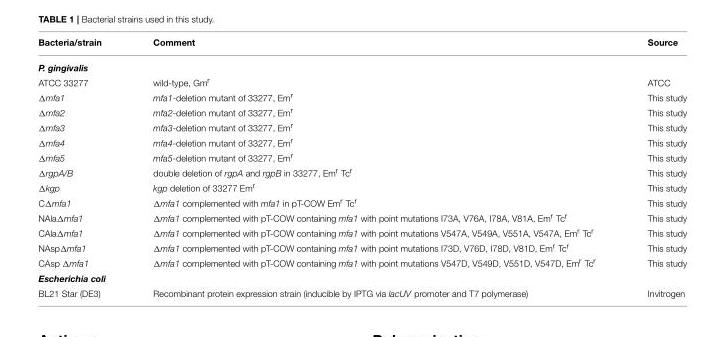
<table><thead><tr><td>Bacteria/strain</td><td>Comment</td><td>Source</td></tr></thead><tbody><tr><td colspan="3">P. gingivalis</td></tr><tr><td>ATCC 33277</td><td>wild-type, Gm<sup>r</sup></td><td>ATCC</td></tr><tr><td>Δmfa1</td><td>mfa1-deletion mutant of 33277, Em<sup>r</sup></td><td>This study</td></tr><tr><td>Δmfa2</td><td>mfa2-deletion mutant of 33277, Em<sup>r</sup></td><td>This study</td></tr><tr><td>Δmfa3</td><td>mfa3-deletion mutant of 33277, Em<sup>r</sup></td><td>This study</td></tr><tr><td>Δmfa4</td><td>mfa4-deletion mutant of 33277, Em<sup>r</sup></td><td>This study</td></tr><tr><td>Δmfa5</td><td>mfa5-deletion mutant of 33277, Em<sup>r</sup></td><td>This study</td></tr><tr><td>ΔrgpA/B</td><td>double deletion of rgpA and rgpB in 33277, Em<sup>r</sup> Tc<sup>r</sup></td><td>This study</td></tr><tr><td>Δkgp</td><td>kgp deletion of 33277 Em<sup>r</sup></td><td>This study</td></tr><tr><td>CΔmfa1</td><td>Δmfa1 complemented with mfa1 in pT-COW Em<sup>r</sup> Tc<sup>r</sup></td><td>This study</td></tr><tr><td>NAlaΔmfa1</td><td>Δmfa1 complemented with pT-COW containing mfa1 with point mutations I73A, V76A, I78A, V81A, Em<sup>r</sup> Tc<sup>r</sup></td><td>This study</td></tr><tr><td>CAlaΔmfa1</td><td>Δmfa1 complemented with pT-COW containing mfa1 with point mutations V547A, V549A, V551A, V547A, Em<sup>r</sup> Tc<sup>r</sup></td><td>This study</td></tr><tr><td>NAspΔmfa1</td><td>Δmfa1 complemented with pT-COW containing mfa1 with point mutations I73D, V76D, I78D, V81D, Em<sup>r</sup> Tc<sup>r</sup></td><td>This study</td></tr><tr><td>CAsp Δmfa1</td><td>Δmfa1 complemented with pT-COW containing mfa1 with point mutations V547D, V549D, V551D, V547D, Em<sup>r</sup> Tc<sup>r</sup></td><td>This study</td></tr><tr><td colspan="3">Escherichia coli</td></tr><tr><td>BL21 Star (DE3)</td><td>Recombinant protein expression strain (inducible by IPTG via lacUV promoter and T7 polymerase)</td><td>Invitrogen</td></tr></tbody></table>